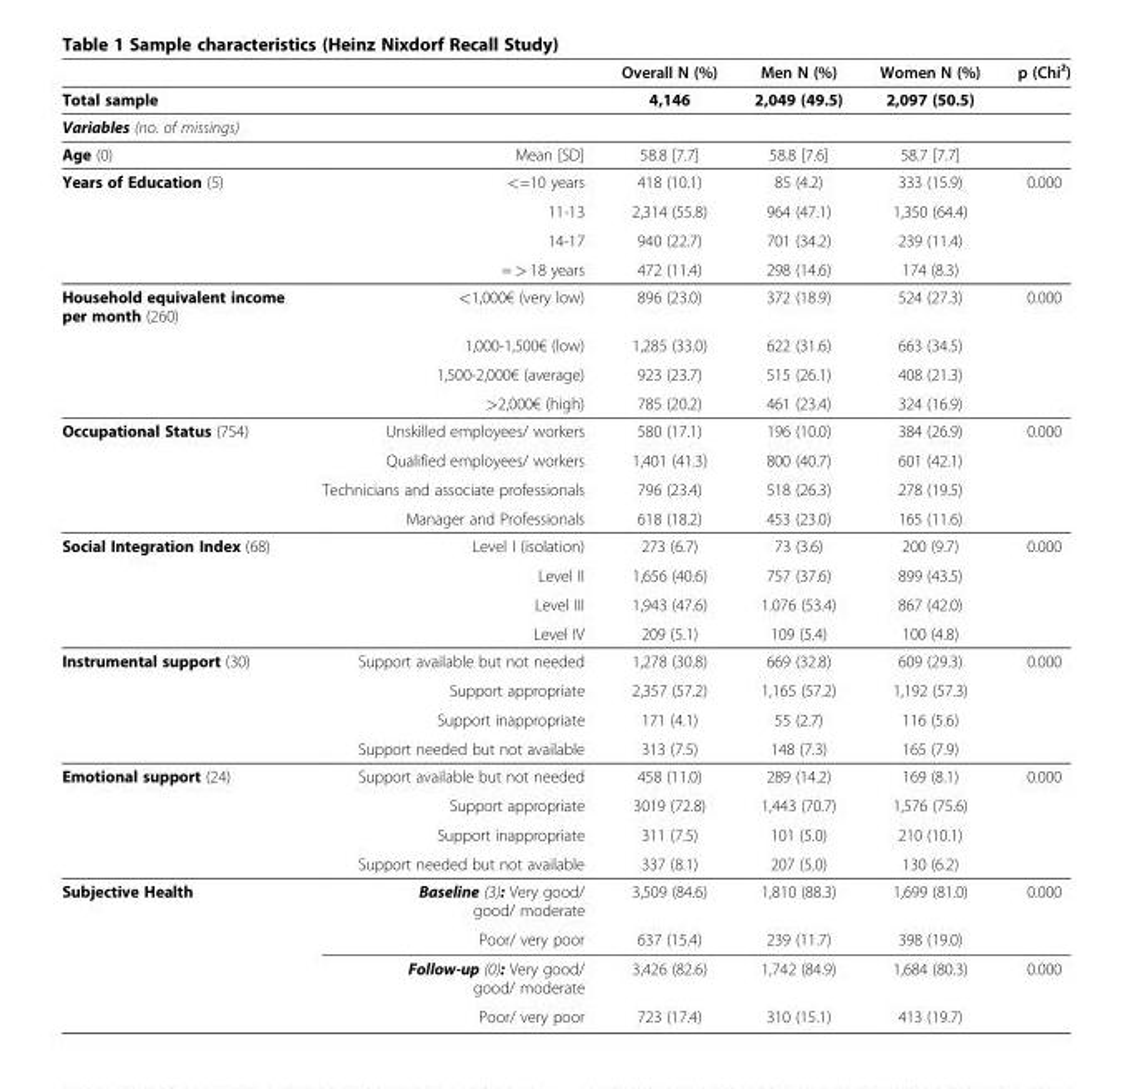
<table><thead><tr><td></td><td></td><td>Overall N (%)</td><td>Men N (%)</td><td>Women N (%)</td><td>p (Chi²)</td></tr></thead><tbody><tr><td colspan="2">Total sample</td><td>4,146</td><td>2,049 (49.5)</td><td>2,097 (50.5)</td><td></td></tr><tr><td colspan="6">Variables (no. of missings)</td></tr><tr><td>Age (0)</td><td>Mean [SD]</td><td>58.8 [7.7]</td><td>58.8 [7.6]</td><td>58.7 [7.7]</td><td></td></tr><tr><td rowspan="4">Years of Education (5)</td><td>&lt;=10 years</td><td>418 (10.1)</td><td>85 (4.2)</td><td>333 (15.9)</td><td>0.000</td></tr><tr><td>11-13</td><td>2,314 (55.8)</td><td>964 (47.1)</td><td>1,350 (64.4)</td><td></td></tr><tr><td>14-17</td><td>940 (22.7)</td><td>701 (34.2)</td><td>239 (11.4)</td><td></td></tr><tr><td>= &gt; 18 years</td><td>472 (11.4)</td><td>298 (14.6)</td><td>174 (8.3)</td><td></td></tr><tr><td rowspan="4">Household equivalent income per month (260)</td><td>&lt;1,000€ (very low)</td><td>896 (23.0)</td><td>372 (18.9)</td><td>524 (27.3)</td><td rowspan="4">0.000</td></tr><tr><td>1,000-1,500€ (low)</td><td>1,285 (33.0)</td><td>622 (31.6)</td><td>663 (34.5)</td></tr><tr><td>1,500-2,000€ (average)</td><td>923 (23.7)</td><td>515 (26.1)</td><td>408 (21.3)</td></tr><tr><td>&gt;2,000€ (high)</td><td>785 (20.2)</td><td>461 (23.4)</td><td>324 (16.9)</td></tr><tr><td rowspan="4">Occupational Status (754)</td><td>Unskilled employees/ workers</td><td>580 (17.1)</td><td>196 (10.0)</td><td>384 (26.9)</td><td rowspan="4">0.000</td></tr><tr><td>Qualified employees/ workers</td><td>1,401 (41.3)</td><td>800 (40.7)</td><td>601 (42.1)</td></tr><tr><td>Technicians and associate professionals</td><td>796 (23.4)</td><td>518 (26.3)</td><td>278 (19.5)</td></tr><tr><td>Manager and Professionals</td><td>618 (18.2)</td><td>453 (23.0)</td><td>165 (11.6)</td></tr><tr><td rowspan="4">Social Integration Index (68)</td><td>Level I (isolation)</td><td>273 (6.7)</td><td>73 (3.6)</td><td>200 (9.7)</td><td rowspan="4">0.000</td></tr><tr><td>Level II</td><td>1,656 (40.6)</td><td>757 (37.6)</td><td>899 (43.5)</td></tr><tr><td>Level III</td><td>1,943 (47.6)</td><td>1.076 (53.4)</td><td>867 (42.0)</td></tr><tr><td>Level IV</td><td>209 (5.1)</td><td>109 (5.4)</td><td>100 (4.8)</td></tr><tr><td rowspan="4">Instrumental support (30)</td><td>Support available but not needed</td><td>1,278 (30.8)</td><td>669 (32.8)</td><td>609 (29.3)</td><td rowspan="4">0.000</td></tr><tr><td>Support appropriate</td><td>2,357 (57.2)</td><td>1,165 (57.2)</td><td>1,192 (57.3)</td></tr><tr><td>Support inappropriate</td><td>171 (4.1)</td><td>55 (2.7)</td><td>116 (5.6)</td></tr><tr><td>Support needed but not available</td><td>313 (7.5)</td><td>148 (7.3)</td><td>165 (7.9)</td></tr><tr><td rowspan="4">Emotional support (24)</td><td>Support available but not needed</td><td>458 (11.0)</td><td>289 (14.2)</td><td>169 (8.1)</td><td rowspan="4">0.000</td></tr><tr><td>Support appropriate</td><td>3019 (72.8)</td><td>1,443 (70.7)</td><td>1,576 (75.6)</td></tr><tr><td>Support inappropriate</td><td>311 (7.5)</td><td>101 (5.0)</td><td>210 (10.1)</td></tr><tr><td>Support needed but not available</td><td>337 (8.1)</td><td>207 (5.0)</td><td>130 (6.2)</td></tr><tr><td rowspan="4">Subjective Health</td><td>Baseline (3): Very good/ good/ moderate</td><td>3,509 (84.6)</td><td>1,810 (88.3)</td><td>1,699 (81.0)</td><td rowspan="2">0.000</td></tr><tr><td>Poor/ very poor</td><td>637 (15.4)</td><td>239 (11.7)</td><td>398 (19.0)</td></tr><tr><td>Follow-up (0): Very good/ good/ moderate</td><td>3,426 (82.6)</td><td>1,742 (84.9)</td><td>1,684 (80.3)</td><td rowspan="2">0.000</td></tr><tr><td>Poor/ very poor</td><td>723 (17.4)</td><td>310 (15.1)</td><td>413 (19.7)</td></tr></tbody></table>